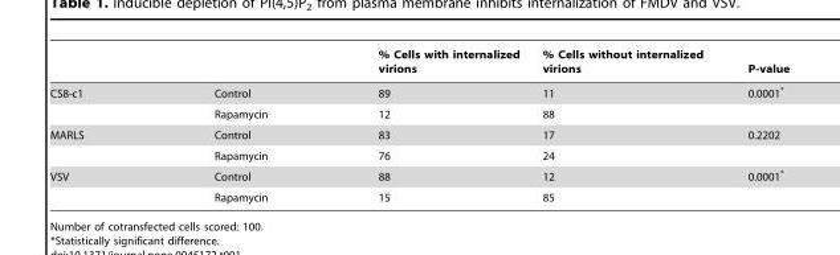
<table><thead><tr><td></td><td></td><td>% Cells with internalized virions</td><td>% Cells without internalized virions</td><td>P-value</td></tr></thead><tbody><tr><td rowspan="2">CS8-c1</td><td>Control</td><td>89</td><td>11</td><td>0.0001*</td></tr><tr><td>Rapamycin</td><td>12</td><td>88</td><td></td></tr><tr><td rowspan="2">MARLS</td><td>Control</td><td>83</td><td>17</td><td>0.2202</td></tr><tr><td>Rapamycin</td><td>76</td><td>24</td><td></td></tr><tr><td rowspan="2">VSV</td><td>Control</td><td>88</td><td>12</td><td>0.0001*</td></tr><tr><td>Rapamycin</td><td>15</td><td>85</td><td></td></tr></tbody></table>